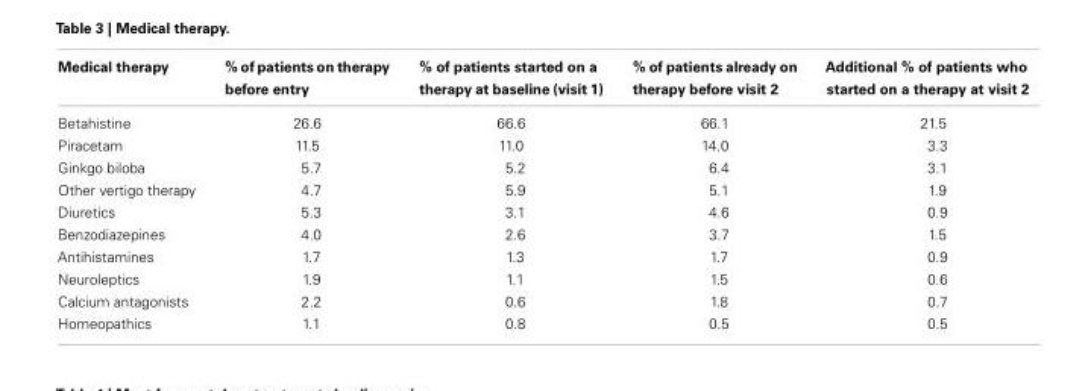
<table><thead><tr><td>Medical therapy</td><td>% of patients on therapy before entry</td><td>% of patients started on a therapy at baseline (visit 1)</td><td>% of patients already on therapy before visit 2</td><td>Additional % of patients who started on a therapy at visit 2</td></tr></thead><tbody><tr><td>Betahistine</td><td>26.6</td><td>66.6</td><td>66.1</td><td>21.5</td></tr><tr><td>Piracetam</td><td>11.5</td><td>11.0</td><td>14.0</td><td>3.3</td></tr><tr><td>Ginkgo biloba</td><td>5.7</td><td>5.2</td><td>6.4</td><td>3.1</td></tr><tr><td>Other vertigo therapy</td><td>4.7</td><td>5.9</td><td>5.1</td><td>1.9</td></tr><tr><td>Diuretics</td><td>5.3</td><td>3.1</td><td>4.6</td><td>0.9</td></tr><tr><td>Benzodiazepines</td><td>4.0</td><td>2.6</td><td>3.7</td><td>1.5</td></tr><tr><td>Antihistamines</td><td>1.7</td><td>1.3</td><td>1.7</td><td>0.9</td></tr><tr><td>Neuroleptics</td><td>1.9</td><td>1.1</td><td>1.5</td><td>0.6</td></tr><tr><td>Calcium antagonists</td><td>2.2</td><td>0.6</td><td>1.8</td><td>0.7</td></tr><tr><td>Homeopathics</td><td>1.1</td><td>0.8</td><td>0.5</td><td>0.5</td></tr></tbody></table>